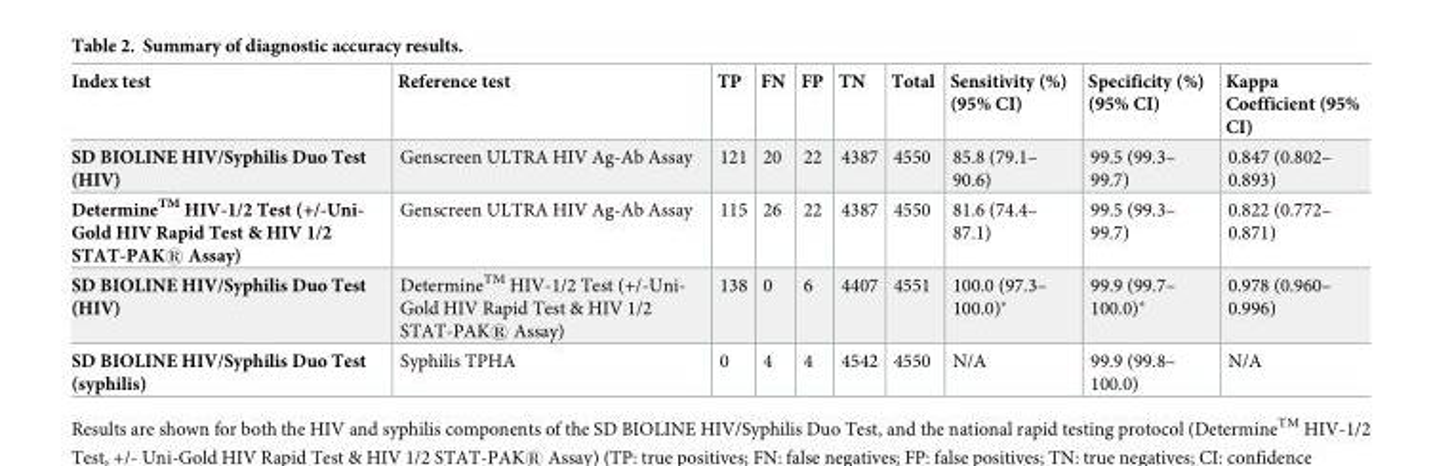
<table><thead><tr><td>Index test</td><td>Reference test</td><td>TP</td><td>FN</td><td>FP</td><td>TN</td><td>Total</td><td>Sensitivity (%) (95% CI)</td><td>Specificity (%) (95% CI)</td><td>Kappa Coefficient (95% CI)</td></tr></thead><tbody><tr><td>SD BIOLINE HIV/Syphilis Duo Test (HIV)</td><td>Genscreen ULTRA HIV Ag-Ab Assay</td><td>121</td><td>20</td><td>22</td><td>4387</td><td>4550</td><td>85.8 (79.1– 90.6)</td><td>99.5 (99.3– 99.7)</td><td>0.847 (0.802– 0.893)</td></tr><tr><td>Determine<sup>TM</sup> HIV-1/2 Test (+/-Uni- Gold HIV Rapid Test &amp; HIV 1/2 STAT-PAK® Assay)</td><td>Genscreen ULTRA HIV Ag-Ab Assay</td><td>115</td><td>26</td><td>22</td><td>4387</td><td>4550</td><td>81.6 (74.4– 87.1)</td><td>99.5 (99.3– 99.7)</td><td>0.822 (0.772– 0.871)</td></tr><tr><td>SD BIOLINE HIV/Syphilis Duo Test (HIV)</td><td>Determine<sup>TM</sup> HIV-1/2 Test (+/-Uni- Gold HIV Rapid Test &amp; HIV 1/2 STAT-PAK® Assay)</td><td>138</td><td>0</td><td>6</td><td>4407</td><td>4551</td><td>100.0 (97.3– 100.0)*</td><td>99.9 (99.7– 100.0)*</td><td>0.978 (0.960– 0.996)</td></tr><tr><td>SD BIOLINE HIV/Syphilis Duo Test (syphilis)</td><td>Syphilis TPHA</td><td>0</td><td>4</td><td>4</td><td>4542</td><td>4550</td><td>N/A</td><td>99.9 (99.8– 100.0)</td><td>N/A</td></tr></tbody></table>